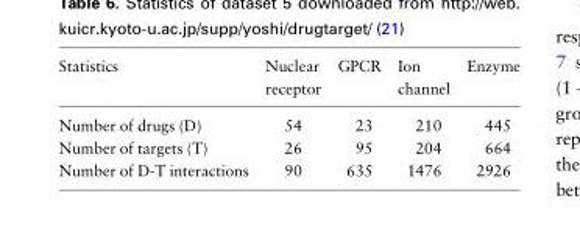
<table><thead><tr><td>Statistics</td><td>Nuclear receptor</td><td>GPCR</td><td>Ion channel</td><td>Enzyme</td></tr></thead><tbody><tr><td>Number of drugs (D)</td><td>54</td><td>23</td><td>210</td><td>445</td></tr><tr><td>Number of targets (T)</td><td>26</td><td>95</td><td>204</td><td>664</td></tr><tr><td>Number of D-T interactions</td><td>90</td><td>635</td><td>1476</td><td>2926</td></tr></tbody></table>